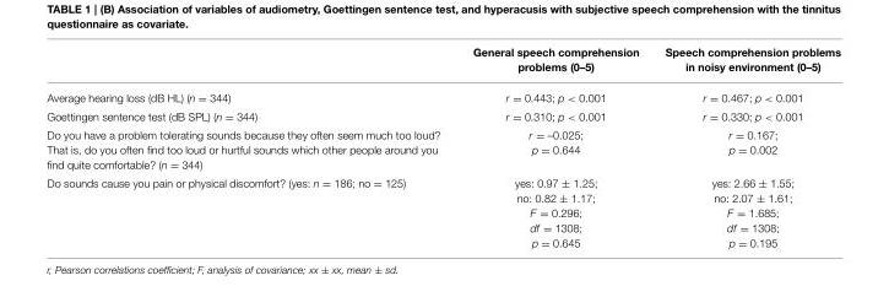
<table><thead><tr><td></td><td>General speech comprehension problems (0–5)</td><td>Speech comprehension problems in noisy environment (0–5)</td></tr></thead><tbody><tr><td>Average hearing loss (dB HL) (n = 344)</td><td>r = 0.443; p &lt; 0.001</td><td>r = 0.467; p &lt; 0.001</td></tr><tr><td>Goettingen sentence test (dB SPL) (n = 344)</td><td>r = 0.310; p &lt; 0.001</td><td>r = 0.330; p &lt; 0.001</td></tr><tr><td>Do you have a problem tolerating sounds because they often seem much too loud? That is, do you often find too loud or hurtful sounds which other people around you find quite comfortable? (n = 344)</td><td>r = –0.025; p = 0.644</td><td>r = 0.167; p = 0.002</td></tr><tr><td>Do sounds cause you pain or physical discomfort? (yes: n = 186; no = 125)</td><td>yes: 0.97 ± 1.25; no: 0.82 ± 1.17; F = 0.296; df = 1308; p = 0.645</td><td>yes: 2.66 ± 1.55; no: 2.07 ± 1.61; F = 1.685; df = 1308; p = 0.195</td></tr></tbody></table>